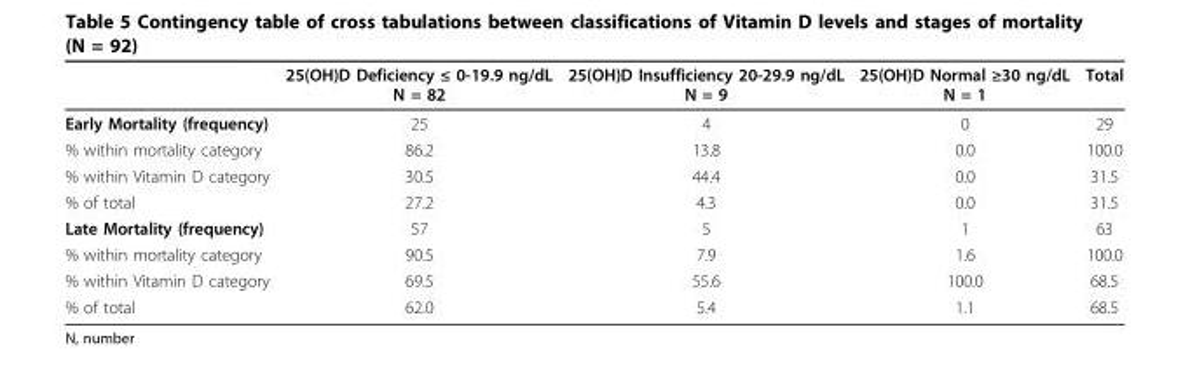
<table><thead><tr><td></td><td>25(OH)D Deficiency ≤ 0-19.9 ng/dL N = 82</td><td>25(OH)D Insufficiency 20-29.9 ng/dL N = 9</td><td>25(OH)D Normal ≥30 ng/dL N = 1</td><td>Total</td></tr></thead><tbody><tr><td>Early Mortality (frequency)</td><td>25</td><td>4</td><td>0</td><td>29</td></tr><tr><td>% within mortality category</td><td>86.2</td><td>13.8</td><td>0.0</td><td>100.0</td></tr><tr><td>% within Vitamin D category</td><td>30.5</td><td>44.4</td><td>0.0</td><td>31.5</td></tr><tr><td>% of total</td><td>27.2</td><td>4.3</td><td>0.0</td><td>31.5</td></tr><tr><td>Late Mortality (frequency)</td><td>57</td><td>5</td><td>1</td><td>63</td></tr><tr><td>% within mortality category</td><td>90.5</td><td>7.9</td><td>1.6</td><td>100.0</td></tr><tr><td>% within Vitamin D category</td><td>69.5</td><td>55.6</td><td>100.0</td><td>68.5</td></tr><tr><td>% of total</td><td>62.0</td><td>5.4</td><td>1.1</td><td>68.5</td></tr></tbody></table>